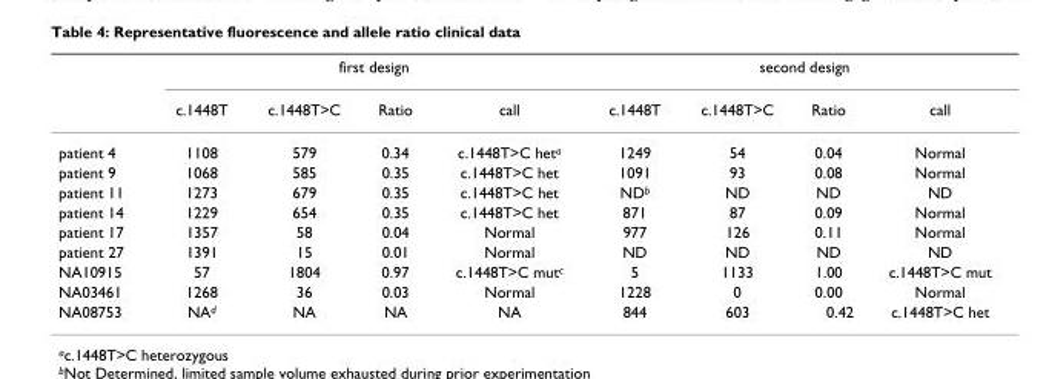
<table><thead><tr><td rowspan="2"></td><td colspan="4">first design</td><td colspan="4">second design</td></tr><tr><td>c.1448T</td><td>c.1448T&gt;C</td><td>Ratio</td><td>call</td><td>c.1448T</td><td>c.1448T&gt;C</td><td>Ratio</td><td>call</td></tr></thead><tbody><tr><td>patient 4</td><td>1108</td><td>579</td><td>0.34</td><td>c.1448T&gt;C het<sup>a</sup></td><td>1249</td><td>54</td><td>0.04</td><td>Normal</td></tr><tr><td>patient 9</td><td>1068</td><td>585</td><td>0.35</td><td>c.1448T&gt;C het</td><td>1091</td><td>93</td><td>0.08</td><td>Normal</td></tr><tr><td>patient 11</td><td>1273</td><td>679</td><td>0.35</td><td>c.1448T&gt;C het</td><td>ND<sup>b</sup></td><td>ND</td><td>ND</td><td>ND</td></tr><tr><td>patient 14</td><td>1229</td><td>654</td><td>0.35</td><td>c.1448T&gt;C het</td><td>871</td><td>87</td><td>0.09</td><td>Normal</td></tr><tr><td>patient 17</td><td>1357</td><td>58</td><td>0.04</td><td>Normal</td><td>977</td><td>126</td><td>0.11</td><td>Normal</td></tr><tr><td>patient 27</td><td>1391</td><td>15</td><td>0.01</td><td>Normal</td><td>ND</td><td>ND</td><td>ND</td><td>ND</td></tr><tr><td>NA10915</td><td>57</td><td>1804</td><td>0.97</td><td>c.1448T&gt;C mut<sup>c</sup></td><td>5</td><td>1133</td><td>1.00</td><td>c.1448T&gt;C mut</td></tr><tr><td>NA03461</td><td>1268</td><td>36</td><td>0.03</td><td>Normal</td><td>1228</td><td>0</td><td>0.00</td><td>Normal</td></tr><tr><td>NA08753</td><td>NA<sup>d</sup></td><td>NA</td><td>NA</td><td>NA</td><td>844</td><td>603</td><td>0.42</td><td>c.1448T&gt;C het</td></tr></tbody></table>